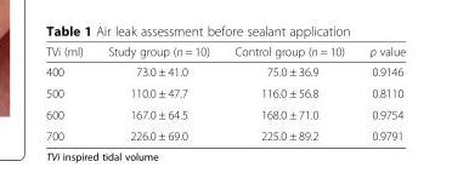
<table><thead><tr><td>TVi (ml)</td><td>Study group (n = 10)</td><td>Control group (n = 10)</td><td>p value</td></tr></thead><tbody><tr><td>400</td><td>73.0 ± 41.0</td><td>75.0 ± 36.9</td><td>0.9146</td></tr><tr><td>500</td><td>110.0 ± 47.7</td><td>116.0 ± 56.8</td><td>0.8110</td></tr><tr><td>600</td><td>167.0 ± 64.5</td><td>168.0 ± 71.0</td><td>0.9754</td></tr><tr><td>700</td><td>226.0 ± 69.0</td><td>225.0 ± 89.2</td><td>0.9791</td></tr></tbody></table>